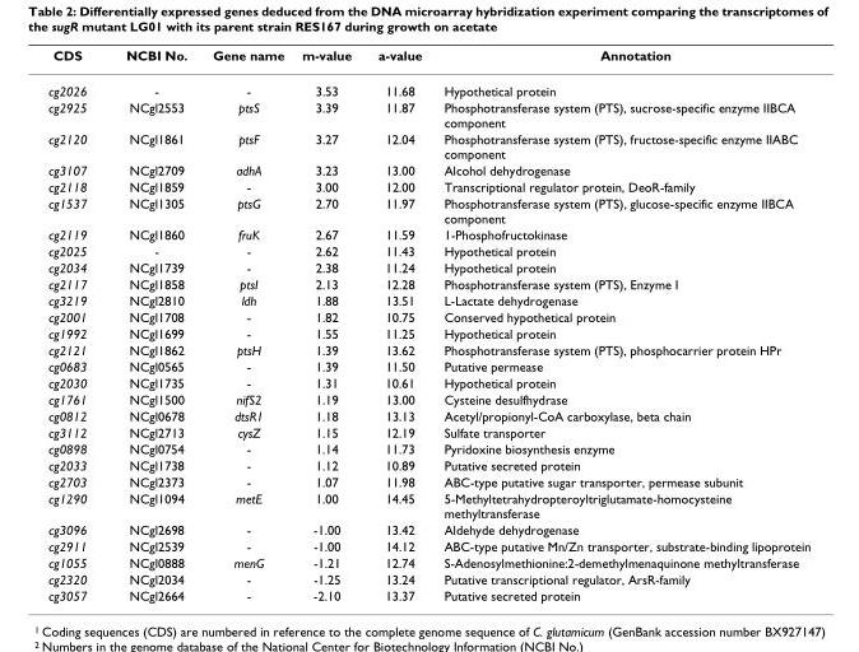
<table><thead><tr><td>CDS</td><td>NCBI No.</td><td>Gene name</td><td>m-value</td><td>a-value</td><td>Annotation</td></tr></thead><tbody><tr><td>cg2026</td><td>-</td><td>-</td><td>3.53</td><td>11.68</td><td>Hypothetical protein</td></tr><tr><td>cg2925</td><td>NCgl2553</td><td>ptsS</td><td>3.39</td><td>11.87</td><td>Phosphotransferase system (PTS), sucrose-specific enzyme IIBCA component</td></tr><tr><td>cg2120</td><td>NCgl1861</td><td>ptsF</td><td>3.27</td><td>12.04</td><td>Phosphotransferase system (PTS), fructose-specific enzyme IIABC component</td></tr><tr><td>cg3107</td><td>NCgl2709</td><td>adhA</td><td>3.23</td><td>13.00</td><td>Alcohol dehydrogenase</td></tr><tr><td>cg2118</td><td>NCgl1859</td><td>-</td><td>3.00</td><td>12.00</td><td>Transcriptional regulator protein, DeoR-family</td></tr><tr><td>cg1537</td><td>NCgl1305</td><td>ptsG</td><td>2.70</td><td>11.97</td><td>Phosphotransferase system (PTS), glucose-specific enzyme IIBCA component</td></tr><tr><td>cg2119</td><td>NCgl1860</td><td>fruK</td><td>2.67</td><td>11.59</td><td>1-Phosphofructokinase</td></tr><tr><td>cg2025</td><td>-</td><td>-</td><td>2.62</td><td>11.43</td><td>Hypothetical protein</td></tr><tr><td>cg2034</td><td>NCgl1739</td><td>-</td><td>2.38</td><td>11.24</td><td>Hypothetical protein</td></tr><tr><td>cg2117</td><td>NCgl1858</td><td>ptsI</td><td>2.13</td><td>12.28</td><td>Phosphotransferase system (PTS), Enzyme I</td></tr><tr><td>cg3219</td><td>NCgl2810</td><td>ldh</td><td>1.88</td><td>13.51</td><td>L-Lactate dehydrogenase</td></tr><tr><td>cg2001</td><td>NCgl1708</td><td>-</td><td>1.82</td><td>10.75</td><td>Conserved hypothetical protein</td></tr><tr><td>cg1992</td><td>NCgl1699</td><td>-</td><td>1.55</td><td>11.25</td><td>Hypothetical protein</td></tr><tr><td>cg2121</td><td>NCgl1862</td><td>ptsH</td><td>1.39</td><td>13.62</td><td>Phosphotransferase system (PTS), phosphocarrier protein HPr</td></tr><tr><td>cg0683</td><td>NCgl0565</td><td>-</td><td>1.39</td><td>11.50</td><td>Putative permease</td></tr><tr><td>cg2030</td><td>NCgl1735</td><td>-</td><td>1.31</td><td>10.61</td><td>Hypothetical protein</td></tr><tr><td>cg1761</td><td>NCgl1500</td><td>nifS2</td><td>1.19</td><td>13.00</td><td>Cysteine desulfhydrase</td></tr><tr><td>cg0812</td><td>NCgl0678</td><td>dtsR1</td><td>1.18</td><td>13.13</td><td>Acetyl/propionyl-CoA carboxylase, beta chain</td></tr><tr><td>cg3112</td><td>NCgl2713</td><td>cysZ</td><td>1.15</td><td>12.19</td><td>Sulfate transporter</td></tr><tr><td>cg0898</td><td>NCgl0754</td><td>-</td><td>1.14</td><td>11.73</td><td>Pyridoxine biosynthesis enzyme</td></tr><tr><td>cg2033</td><td>NCgl1738</td><td>-</td><td>1.12</td><td>10.89</td><td>Putative secreted protein</td></tr><tr><td>cg2703</td><td>NCgl2373</td><td>-</td><td>1.07</td><td>11.98</td><td>ABC-type putative sugar transporter, permease subunit</td></tr><tr><td>cg1290</td><td>NCgl1094</td><td>metE</td><td>1.00</td><td>14.45</td><td>5-Methyltetrahydropteroyltriglutamate-homocysteine methyltransferase</td></tr><tr><td>cg3096</td><td>NCgl2698</td><td>-</td><td>-1.00</td><td>13.42</td><td>Aldehyde dehydrogenase</td></tr><tr><td>cg2911</td><td>NCgl2539</td><td>-</td><td>-1.00</td><td>14.12</td><td>ABC-type putative Mn/Zn transporter, substrate-binding lipoprotein</td></tr><tr><td>cg1055</td><td>NCgl0888</td><td>menG</td><td>-1.21</td><td>12.74</td><td>S-Adenosylmethionine:2-demethylmenaquinone methyltransferase</td></tr><tr><td>cg2320</td><td>NCgl2034</td><td>-</td><td>-1.25</td><td>13.24</td><td>Putative transcriptional regulator, ArsR-family</td></tr><tr><td>cg3057</td><td>NCgl2664</td><td>-</td><td>-2.10</td><td>13.37</td><td>Putative secreted protein</td></tr></tbody></table>